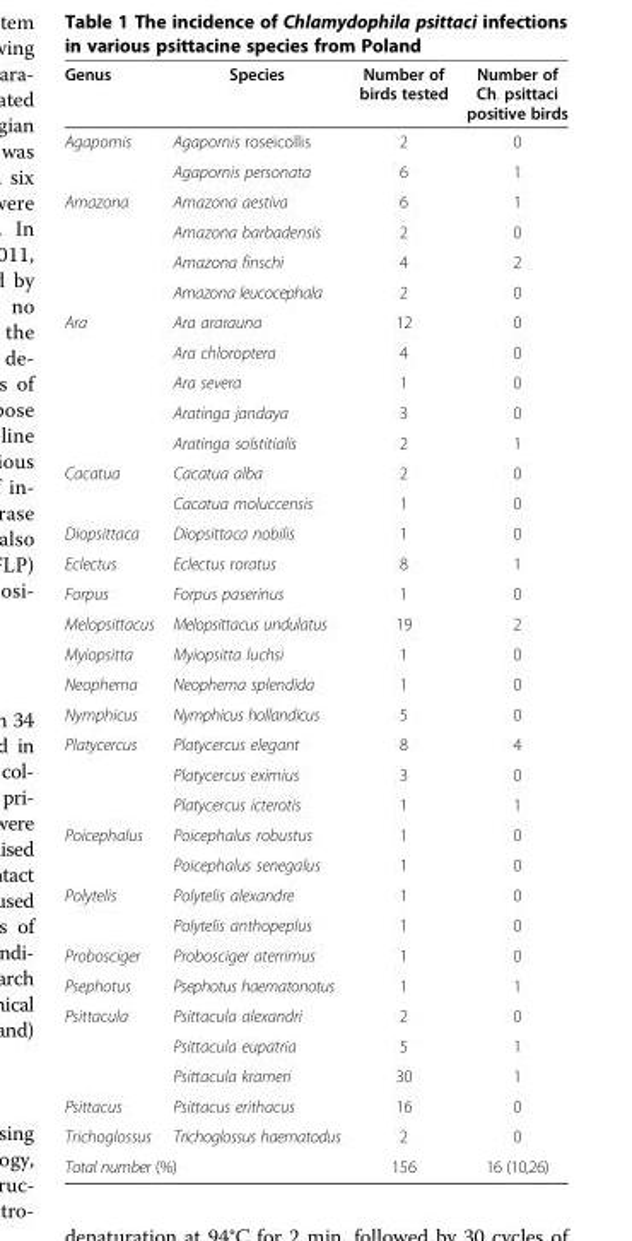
<table><thead><tr><td>Genus</td><td>Species</td><td>Number of birds tested</td><td>Number of Ch. psittaci positive birds</td></tr></thead><tbody><tr><td rowspan="2">Agapornis</td><td>Agapornis roseicollis</td><td>2</td><td>0</td></tr><tr><td>Agapornis personata</td><td>6</td><td>1</td></tr><tr><td rowspan="4">Amazona</td><td>Amazona aestiva</td><td>6</td><td>1</td></tr><tr><td>Amazona barbadensis</td><td>2</td><td>0</td></tr><tr><td>Amazona finschi</td><td>4</td><td>2</td></tr><tr><td>Amazona leucocephala</td><td>2</td><td>0</td></tr><tr><td rowspan="5">Ara</td><td>Ara ararauna</td><td>12</td><td>0</td></tr><tr><td>Ara chloroptera</td><td>4</td><td>0</td></tr><tr><td>Ara severa</td><td>1</td><td>0</td></tr><tr><td>Aratinga jandaya</td><td>3</td><td>0</td></tr><tr><td>Aratinga solstitialis</td><td>2</td><td>1</td></tr><tr><td rowspan="2">Cacatua</td><td>Cacatua alba</td><td>2</td><td>0</td></tr><tr><td>Cacatua moluccensis</td><td>1</td><td>0</td></tr><tr><td>Diopsittaca</td><td>Diopsittaca nobilis</td><td>1</td><td>0</td></tr><tr><td>Eclectus</td><td>Eclectus roratus</td><td>8</td><td>1</td></tr><tr><td>Forpus</td><td>Forpus paserinus</td><td>1</td><td>0</td></tr><tr><td>Melopsittacus</td><td>Melopsittacus undulatus</td><td>19</td><td>2</td></tr><tr><td>Myiopsitta</td><td>Myiopsitta luchsi</td><td>1</td><td>0</td></tr><tr><td>Neophema</td><td>Neophema splendida</td><td>1</td><td>0</td></tr><tr><td>Nymphicus</td><td>Nymphicus hollandicus</td><td>5</td><td>0</td></tr><tr><td rowspan="3">Platycercus</td><td>Platycercus elegant</td><td>8</td><td>4</td></tr><tr><td>Platycercus eximius</td><td>3</td><td>0</td></tr><tr><td>Platycercus icterotis</td><td>1</td><td>1</td></tr><tr><td rowspan="2">Poicephalus</td><td>Poicephalus robustus</td><td>1</td><td>0</td></tr><tr><td>Poicephalus senegalus</td><td>1</td><td>0</td></tr><tr><td rowspan="2">Polytelis</td><td>Polytelis alexandre</td><td>1</td><td>0</td></tr><tr><td>Polytelis anthopeplus</td><td>1</td><td>0</td></tr><tr><td>Probosciger</td><td>Probosciger aterrimus</td><td>1</td><td>0</td></tr><tr><td>Psephotus</td><td>Psephotus haematonotus</td><td>1</td><td>1</td></tr><tr><td rowspan="3">Psittacula</td><td>Psittacula alexandri</td><td>2</td><td>0</td></tr><tr><td>Psittacula eupatria</td><td>5</td><td>1</td></tr><tr><td>Psittacula krameri</td><td>30</td><td>1</td></tr><tr><td>Psittacus</td><td>Psittacus erithacus</td><td>16</td><td>0</td></tr><tr><td>Trichoglossus</td><td>Trichoglossus haematodus</td><td>2</td><td>0</td></tr><tr><td colspan="2">Total number (%)</td><td>156</td><td>16 (10,26)</td></tr></tbody></table>